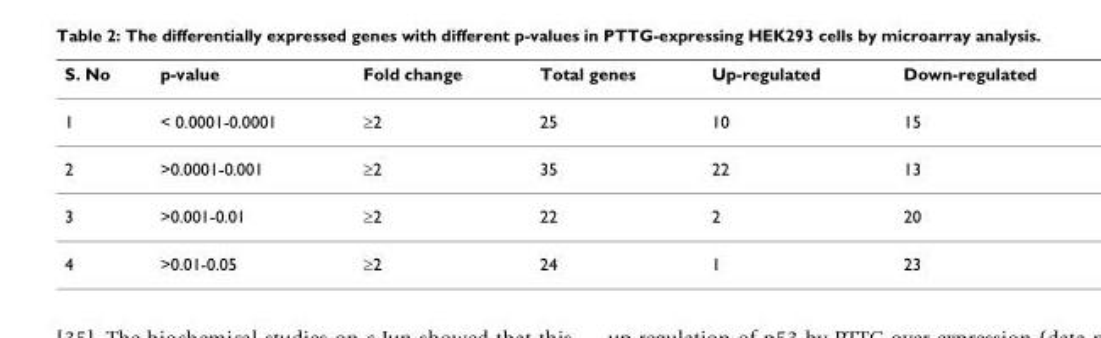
<table><thead><tr><td>S. No</td><td>p-value</td><td>Fold change</td><td>Total genes</td><td>Up-regulated</td><td>Down-regulated</td></tr></thead><tbody><tr><td>1</td><td>&lt; 0.0001-0.0001</td><td>≥2</td><td>25</td><td>10</td><td>15</td></tr><tr><td>2</td><td>&gt;0.0001-0.001</td><td>≥2</td><td>35</td><td>22</td><td>13</td></tr><tr><td>3</td><td>&gt;0.001-0.01</td><td>≥2</td><td>22</td><td>2</td><td>20</td></tr><tr><td>4</td><td>&gt;0.01-0.05</td><td>≥2</td><td>24</td><td>1</td><td>23</td></tr></tbody></table>